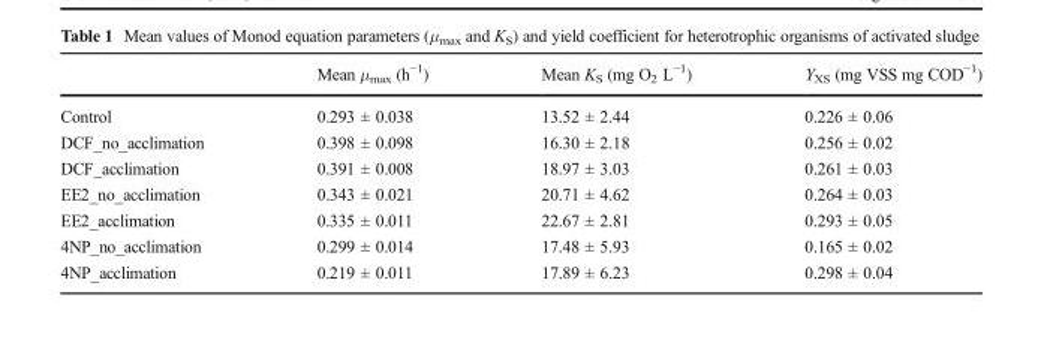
<table><thead><tr><td></td><td>Mean μ<sub>max</sub> (h<sup>−1</sup>)</td><td>Mean K<sub>S</sub> (mg O<sub>2</sub> L<sup>−1</sup>)</td><td>Y<sub>XS</sub> (mg VSS mg COD<sup>−1</sup>)</td></tr></thead><tbody><tr><td>Control</td><td>0.293 ± 0.038</td><td>13.52 ± 2.44</td><td>0.226 ± 0.06</td></tr><tr><td>DCF_no_acclimation</td><td>0.398 ± 0.098</td><td>16.30 ± 2.18</td><td>0.256 ± 0.02</td></tr><tr><td>DCF_acclimation</td><td>0.391 ± 0.008</td><td>18.97 ± 3.03</td><td>0.261 ± 0.03</td></tr><tr><td>EE2_no_acclimation</td><td>0.343 ± 0.021</td><td>20.71 ± 4.62</td><td>0.264 ± 0.03</td></tr><tr><td>EE2_acclimation</td><td>0.335 ± 0.011</td><td>22.67 ± 2.81</td><td>0.293 ± 0.05</td></tr><tr><td>4NP_no_acclimation</td><td>0.299 ± 0.014</td><td>17.48 ± 5.93</td><td>0.165 ± 0.02</td></tr><tr><td>4NP_acclimation</td><td>0.219 ± 0.011</td><td>17.89 ± 6.23</td><td>0.298 ± 0.04</td></tr></tbody></table>